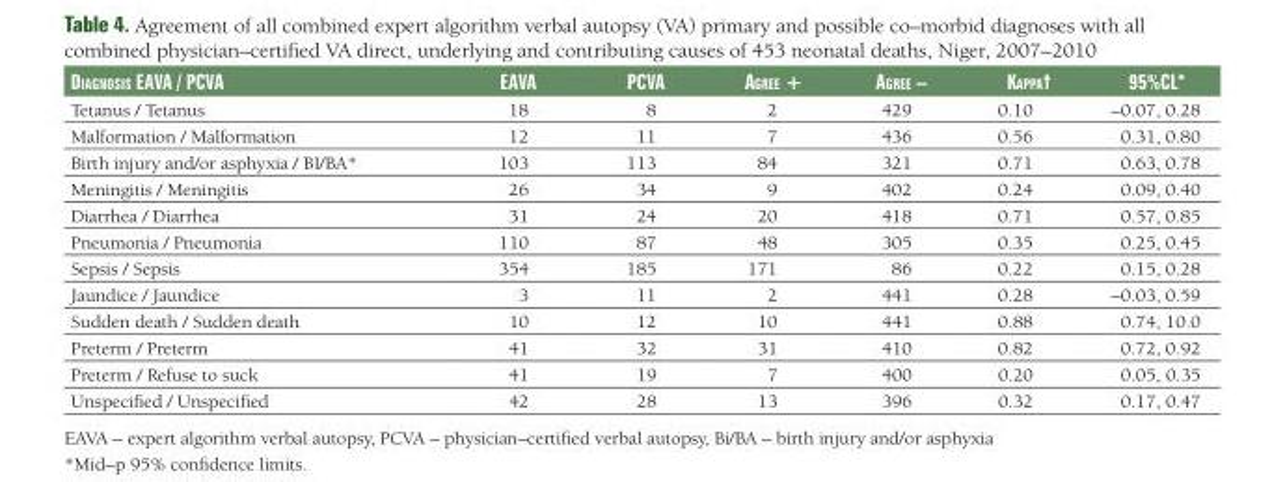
<table><thead><tr><td>diAgNoSiS eAVA / pcVA</td><td>eAVA</td><td>pcVA</td><td>Agree +</td><td>Agree –</td><td>KAppA†</td><td>95%cl*</td></tr></thead><tbody><tr><td>Tetanus / Tetanus</td><td>18</td><td>8</td><td>2</td><td>429</td><td>0.10</td><td>–0.07, 0.28</td></tr><tr><td>Malformation / Malformation</td><td>12</td><td>11</td><td>7</td><td>436</td><td>0.56</td><td>0.31, 0.80</td></tr><tr><td>Birth injury and/or asphyxia / BI/BA*</td><td>103</td><td>113</td><td>84</td><td>321</td><td>0.71</td><td>0.63, 0.78</td></tr><tr><td>Meningitis / Meningitis</td><td>26</td><td>34</td><td>9</td><td>402</td><td>0.24</td><td>0.09, 0.40</td></tr><tr><td>Diarrhea / Diarrhea</td><td>31</td><td>24</td><td>20</td><td>418</td><td>0.71</td><td>0.57, 0.85</td></tr><tr><td>Pneumonia / Pneumonia</td><td>110</td><td>87</td><td>48</td><td>305</td><td>0.35</td><td>0.25, 0.45</td></tr><tr><td>Sepsis / Sepsis</td><td>354</td><td>185</td><td>171</td><td>86</td><td>0.22</td><td>0.15, 0.28</td></tr><tr><td>Jaundice / Jaundice</td><td>3</td><td>11</td><td>2</td><td>441</td><td>0.28</td><td>–0.03, 0.59</td></tr><tr><td>Sudden death / Sudden death</td><td>10</td><td>12</td><td>10</td><td>441</td><td>0.88</td><td>0.74, 10.0</td></tr><tr><td>Preterm / Preterm</td><td>41</td><td>32</td><td>31</td><td>410</td><td>0.82</td><td>0.72, 0.92</td></tr><tr><td>Preterm / Refuse to suck</td><td>41</td><td>19</td><td>7</td><td>400</td><td>0.20</td><td>0.05, 0.35</td></tr><tr><td>Unspecified / Unspecified</td><td>42</td><td>28</td><td>13</td><td>396</td><td>0.32</td><td>0.17, 0.47</td></tr></tbody></table>